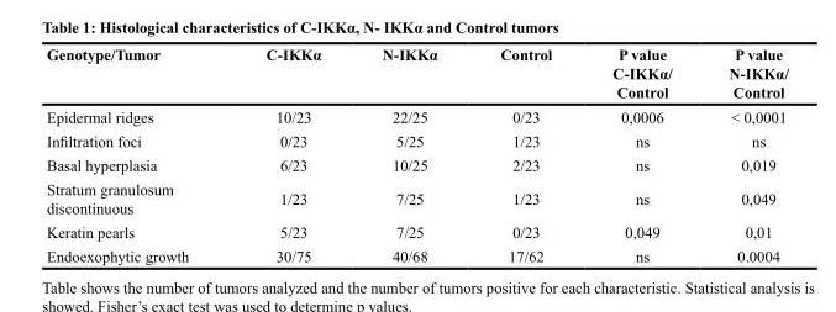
<table><thead><tr><td>Genotype/Tumor</td><td>C-IKKα</td><td>N-IKKα</td><td>Control</td><td>P value C-IKKα/ Control</td><td>P value N-IKKα/ Control</td></tr></thead><tbody><tr><td>Epidermal ridges</td><td>10/23</td><td>22/25</td><td>0/23</td><td>0,0006</td><td>&lt; 0,0001</td></tr><tr><td>Infiltration foci</td><td>0/23</td><td>5/25</td><td>1/23</td><td>ns</td><td>ns</td></tr><tr><td>Basal hyperplasia</td><td>6/23</td><td>10/25</td><td>2/23</td><td>ns</td><td>0,019</td></tr><tr><td>Stratum granulosum discontinuous</td><td>1/23</td><td>7/25</td><td>1/23</td><td>ns</td><td>0,049</td></tr><tr><td>Keratin pearls</td><td>5/23</td><td>7/25</td><td>0/23</td><td>0,049</td><td>0,01</td></tr><tr><td>Endoexophytic growth</td><td>30/75</td><td>40/68</td><td>17/62</td><td>ns</td><td>0.0004</td></tr></tbody></table>